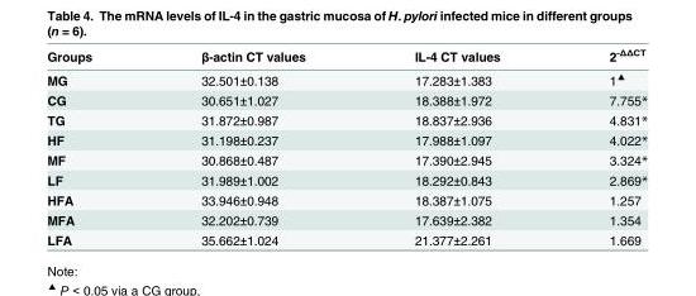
<table><thead><tr><td>Groups</td><td>β-actin CT values</td><td>IL-4 CT values</td><td>2<sup>-ΔΔCT</sup></td></tr></thead><tbody><tr><td>MG</td><td>32.501±0.138</td><td>17.283±1.383</td><td>1<sup>▲</sup></td></tr><tr><td>CG</td><td>30.651±1.027</td><td>18.388±1.972</td><td>7.755*</td></tr><tr><td>TG</td><td>31.872±0.987</td><td>18.837±2.936</td><td>4.831*</td></tr><tr><td>HF</td><td>31.198±0.237</td><td>17.988±1.097</td><td>4.022*</td></tr><tr><td>MF</td><td>30.868±0.487</td><td>17.390±2.945</td><td>3.324*</td></tr><tr><td>LF</td><td>31.989±1.002</td><td>18.292±0.843</td><td>2.869*</td></tr><tr><td>HFA</td><td>33.946±0.948</td><td>18.387±1.075</td><td>1.257</td></tr><tr><td>MFA</td><td>32.202±0.739</td><td>17.639±2.382</td><td>1.354</td></tr><tr><td>LFA</td><td>35.662±1.024</td><td>21.377±2.261</td><td>1.669</td></tr></tbody></table>